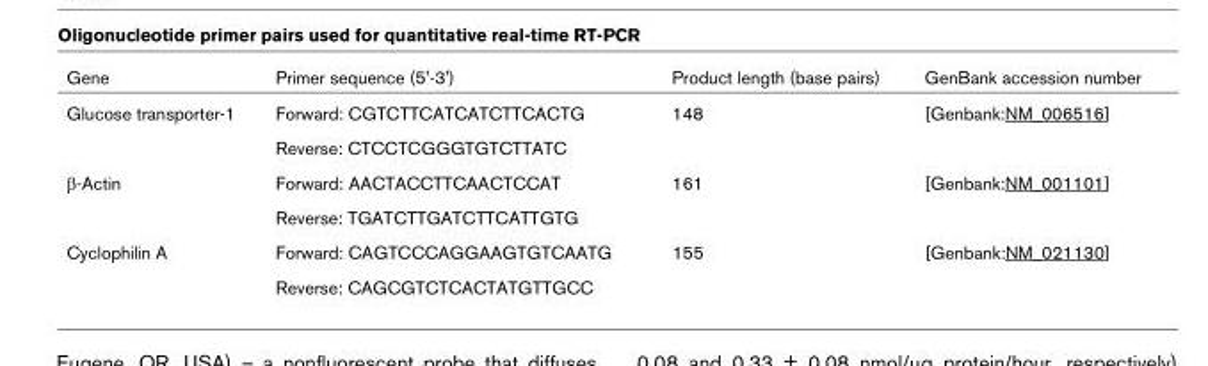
<table><thead><tr><td>Gene</td><td>Primer sequence (5&#x27;-3&#x27;)</td><td>Product length (base pairs)</td><td>GenBank accession number</td></tr></thead><tbody><tr><td rowspan="2">Glucose transporter-1</td><td>Forward: CGTCTTCATCATCTTCACTG</td><td>148</td><td>[Genbank:NM_006516]</td></tr><tr><td>Reverse: CTCCTCGGGTGTCTTATC</td><td></td><td></td></tr><tr><td rowspan="2">β-Actin</td><td>Forward: AACTACCTTCAACTCCAT</td><td>161</td><td>[Genbank:NM_001101]</td></tr><tr><td>Reverse: TGATCTTGATCTTCATTGTG</td><td></td><td></td></tr><tr><td rowspan="2">Cyclophilin A</td><td>Forward: CAGTCCCAGGAAGTGTCAATG</td><td>155</td><td>[Genbank:NM_021130]</td></tr><tr><td>Reverse: CAGCGTCTCACTATGTTGCC</td><td></td><td></td></tr></tbody></table>